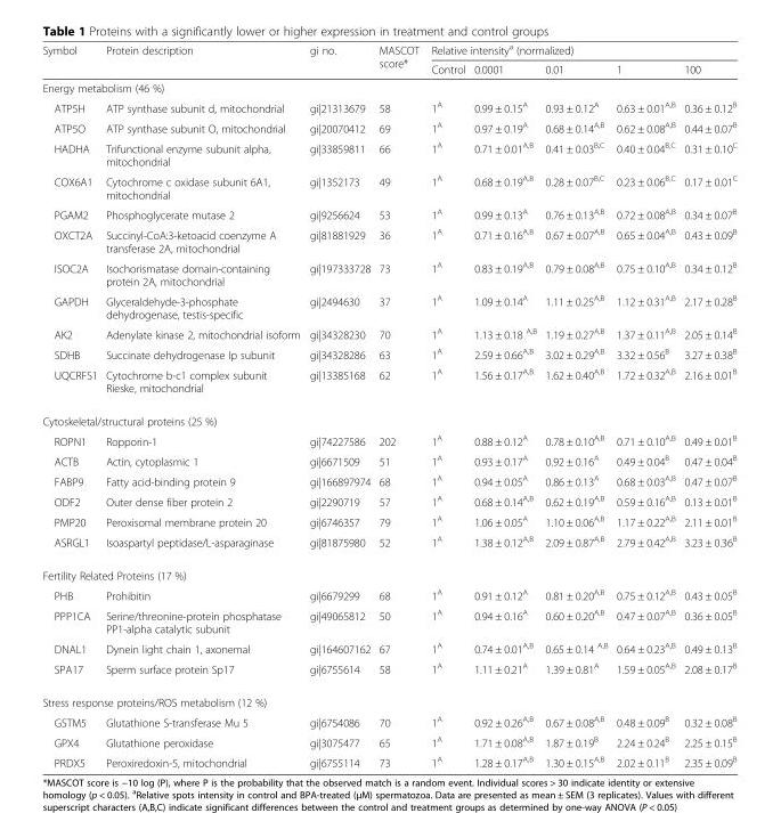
<table><thead><tr><td rowspan="2">Symbol</td><td rowspan="2">Protein description</td><td rowspan="2">gi no.</td><td rowspan="2">MASCOT score*</td><td colspan="5">Relative intensity<sup>a</sup> (normalized)</td></tr><tr><td>Control</td><td>0.0001</td><td>0.01</td><td>1</td><td>100</td></tr></thead><tbody><tr><td colspan="9">Energy metabolism (46 %)</td></tr><tr><td>ATP5H</td><td>ATP synthase subunit d, mitochondrial</td><td>gi|21313679</td><td>58</td><td>1<sup>A</sup></td><td>0.99 ± 0.15<sup>A</sup></td><td>0.93 ± 0.12<sup>A</sup></td><td>0.63 ± 0.01<sup>A,B</sup></td><td>0.36 ± 0.12<sup>B</sup></td></tr><tr><td>ATP5O</td><td>ATP synthase subunit O, mitochondrial</td><td>gi|20070412</td><td>69</td><td>1<sup>A</sup></td><td>0.97 ± 0.19<sup>A</sup></td><td>0.68 ± 0.14<sup>A,B</sup></td><td>0.62 ± 0.08<sup>A,B</sup></td><td>0.44 ± 0.07<sup>B</sup></td></tr><tr><td>HADHA</td><td>Trifunctional enzyme subunit alpha, mitochondrial</td><td>gi|33859811</td><td>66</td><td>1<sup>A</sup></td><td>0.71 ± 0.01<sup>A,B</sup></td><td>0.41 ± 0.03<sup>B,C</sup></td><td>0.40 ± 0.04<sup>B,C</sup></td><td>0.31 ± 0.10<sup>C</sup></td></tr><tr><td>COX6A1</td><td>Cytochrome c oxidase subunit 6A1, mitochondrial</td><td>gi|1352173</td><td>49</td><td>1<sup>A</sup></td><td>0.68 ± 0.19<sup>A,B</sup></td><td>0.28 ± 0.07<sup>B,C</sup></td><td>0.23 ± 0.06<sup>B,C</sup></td><td>0.17 ± 0.01<sup>C</sup></td></tr><tr><td>PGAM2</td><td>Phosphoglycerate mutase 2</td><td>gi|9256624</td><td>53</td><td>1<sup>A</sup></td><td>0.99 ± 0.13<sup>A</sup></td><td>0.76 ± 0.13<sup>A,B</sup></td><td>0.72 ± 0.08<sup>A,B</sup></td><td>0.34 ± 0.07<sup>B</sup></td></tr><tr><td>OXCT2A</td><td>Succinyl-CoA:3-ketoacid coenzyme A transferase 2A, mitochondrial</td><td>gi|81881929</td><td>36</td><td>1<sup>A</sup></td><td>0.71 ± 0.16<sup>A,B</sup></td><td>0.67 ± 0.07<sup>A,B</sup></td><td>0.65 ± 0.04<sup>A,B</sup></td><td>0.43 ± 0.09<sup>B</sup></td></tr><tr><td>ISOC2A</td><td>Isochorismatase domain-containing protein 2A, mitochondrial</td><td>gi|197333728</td><td>73</td><td>1<sup>A</sup></td><td>0.83 ± 0.19<sup>A,B</sup></td><td>0.79 ± 0.08<sup>A,B</sup></td><td>0.75 ± 0.10<sup>A,B</sup></td><td>0.34 ± 0.12<sup>B</sup></td></tr><tr><td>GAPDH</td><td>Glyceraldehyde-3-phosphate dehydrogenase, testis-specific</td><td>gi|2494630</td><td>37</td><td>1<sup>A</sup></td><td>1.09 ± 0.14<sup>A</sup></td><td>1.11 ± 0.25<sup>A,B</sup></td><td>1.12 ± 0.31<sup>A,B</sup></td><td>2.17 ± 0.28<sup>B</sup></td></tr><tr><td>AK2</td><td>Adenylate kinase 2, mitochondrial isoform</td><td>gi|34328230</td><td>70</td><td>1<sup>A</sup></td><td>1.13 ± 0.18 <sup>A,B</sup></td><td>1.19 ± 0.27<sup>A,B</sup></td><td>1.37 ± 0.11<sup>A,B</sup></td><td>2.05 ± 0.14<sup>B</sup></td></tr><tr><td>SDHB</td><td>Succinate dehydrogenase Ip subunit</td><td>gi|34328286</td><td>63</td><td>1<sup>A</sup></td><td>2.59 ± 0.66<sup>A,B</sup></td><td>3.02 ± 0.29<sup>A,B</sup></td><td>3.32 ± 0.56<sup>B</sup></td><td>3.27 ± 0.38<sup>B</sup></td></tr><tr><td>UQCRFS1</td><td>Cytochrome b-c1 complex subunit Rieske, mitochondrial</td><td>gi|13385168</td><td>62</td><td>1<sup>A</sup></td><td>1.56 ± 0.17<sup>A,B</sup></td><td>1.62 ± 0.40<sup>A,B</sup></td><td>1.72 ± 0.32<sup>A,B</sup></td><td>2.16 ± 0.01<sup>B</sup></td></tr><tr><td colspan="9">Cytoskeletal/structural proteins (25 %)</td></tr><tr><td>ROPN1</td><td>Ropporin-1</td><td>gi|74227586</td><td>202</td><td>1<sup>A</sup></td><td>0.88 ± 0.12<sup>A</sup></td><td>0.78 ± 0.10<sup>A,B</sup></td><td>0.71 ± 0.10<sup>A,B</sup></td><td>0.49 ± 0.01<sup>B</sup></td></tr><tr><td>ACTB</td><td>Actin, cytoplasmic 1</td><td>gi|6671509</td><td>51</td><td>1<sup>A</sup></td><td>0.93 ± 0.17<sup>A</sup></td><td>0.92 ± 0.16<sup>A</sup></td><td>0.49 ± 0.04<sup>B</sup></td><td>0.47 ± 0.04<sup>B</sup></td></tr><tr><td>FABP9</td><td>Fatty acid-binding protein 9</td><td>gi|166897974</td><td>68</td><td>1<sup>A</sup></td><td>0.94 ± 0.05<sup>A</sup></td><td>0.86 ± 0.13<sup>A</sup></td><td>0.68 ± 0.03<sup>A,B</sup></td><td>0.47 ± 0.07<sup>B</sup></td></tr><tr><td>ODF2</td><td>Outer dense fiber protein 2</td><td>gi|2290719</td><td>57</td><td>1<sup>A</sup></td><td>0.68 ± 0.14<sup>A,B</sup></td><td>0.62 ± 0.19<sup>A,B</sup></td><td>0.59 ± 0.16<sup>A,B</sup></td><td>0.13 ± 0.01<sup>B</sup></td></tr><tr><td>PMP20</td><td>Peroxisomal membrane protein 20</td><td>gi|6746357</td><td>79</td><td>1<sup>A</sup></td><td>1.06 ± 0.05<sup>A</sup></td><td>1.10 ± 0.06<sup>A,B</sup></td><td>1.17 ± 0.22<sup>A,B</sup></td><td>2.11 ± 0.01<sup>B</sup></td></tr><tr><td>ASRGL1</td><td>Isoaspartyl peptidase/L-asparaginase</td><td>gi|81875980</td><td>52</td><td>1<sup>A</sup></td><td>1.38 ± 0.12<sup>A,B</sup></td><td>2.09 ± 0.87<sup>A,B</sup></td><td>2.79 ± 0.42<sup>A,B</sup></td><td>3.23 ± 0.36<sup>B</sup></td></tr><tr><td colspan="9">Fertility Related Proteins (17 %)</td></tr><tr><td>PHB</td><td>Prohibitin</td><td>gi|6679299</td><td>68</td><td>1<sup>A</sup></td><td>0.91 ± 0.12<sup>A</sup></td><td>0.81 ± 0.20<sup>A,B</sup></td><td>0.75 ± 0.12<sup>A,B</sup></td><td>0.43 ± 0.05<sup>B</sup></td></tr><tr><td>PPP1CA</td><td>Serine/threonine-protein phosphatase PP1-alpha catalytic subunit</td><td>gi|49065812</td><td>50</td><td>1<sup>A</sup></td><td>0.94 ± 0.16<sup>A</sup></td><td>0.60 ± 0.20<sup>A,B</sup></td><td>0.47 ± 0.07<sup>A,B</sup></td><td>0.36 ± 0.05<sup>B</sup></td></tr><tr><td>DNAL1</td><td>Dynein light chain 1, axonemal</td><td>gi|164607162</td><td>67</td><td>1<sup>A</sup></td><td>0.74 ± 0.01<sup>A,B</sup></td><td>0.65 ± 0.14 <sup>A,B</sup></td><td>0.64 ± 0.23<sup>A,B</sup></td><td>0.49 ± 0.13<sup>B</sup></td></tr><tr><td>SPA17</td><td>Sperm surface protein Sp17</td><td>gi|6755614</td><td>58</td><td>1<sup>A</sup></td><td>1.11 ± 0.21<sup>A</sup></td><td>1.39 ± 0.81<sup>A</sup></td><td>1.59 ± 0.05<sup>A,B</sup></td><td>2.08 ± 0.17<sup>B</sup></td></tr><tr><td colspan="9">Stress response proteins/ROS metabolism (12 %)</td></tr><tr><td>GSTM5</td><td>Glutathione S-transferase Mu 5</td><td>gi|6754086</td><td>70</td><td>1<sup>A</sup></td><td>0.92 ± 0.26<sup>A,B</sup></td><td>0.67 ± 0.08<sup>A,B</sup></td><td>0.48 ± 0.09<sup>B</sup></td><td>0.32 ± 0.08<sup>B</sup></td></tr><tr><td>GPX4</td><td>Glutathione peroxidase</td><td>gi|3075477</td><td>65</td><td>1<sup>A</sup></td><td>1.71 ± 0.08<sup>A,B</sup></td><td>1.87 ± 0.19<sup>B</sup></td><td>2.24 ± 0.24<sup>B</sup></td><td>2.25 ± 0.15<sup>B</sup></td></tr><tr><td>PRDX5</td><td>Peroxiredoxin-5, mitochondrial</td><td>gi|6755114</td><td>73</td><td>1<sup>A</sup></td><td>1.28 ± 0.17<sup>A,B</sup></td><td>1.30 ± 0.15<sup>A,B</sup></td><td>2.02 ± 0.11<sup>B</sup></td><td>2.35 ± 0.09<sup>B</sup></td></tr></tbody></table>